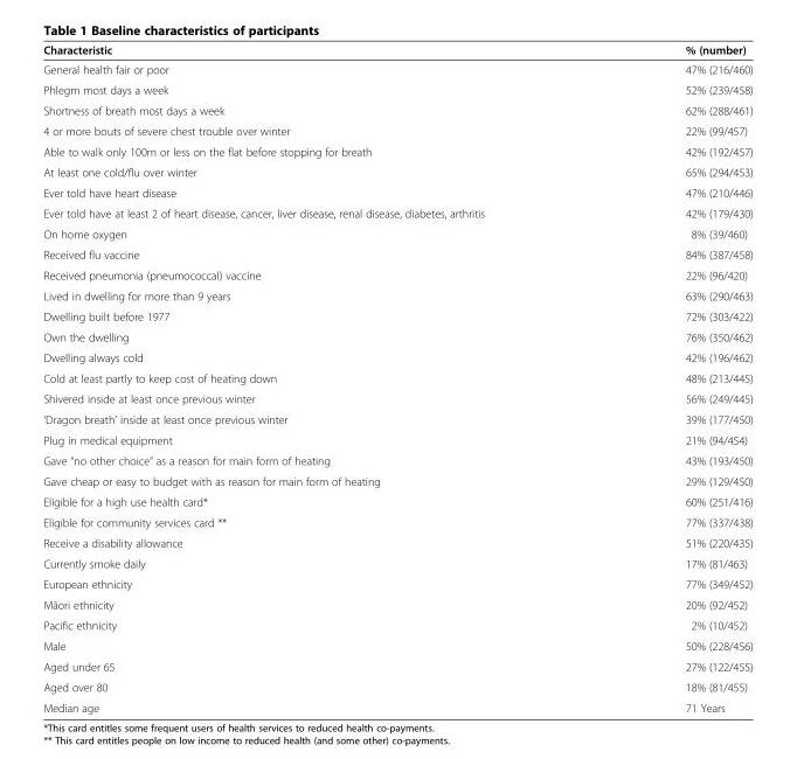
<table><thead><tr><td>Characteristic</td><td>% (number)</td></tr></thead><tbody><tr><td>General health fair or poor</td><td>47% (216/460)</td></tr><tr><td>Phlegm most days a week</td><td>52% (239/458)</td></tr><tr><td>Shortness of breath most days a week</td><td>62% (288/461)</td></tr><tr><td>4 or more bouts of severe chest trouble over winter</td><td>22% (99/457)</td></tr><tr><td>Able to walk only 100m or less on the flat before stopping for breath</td><td>42% (192/457)</td></tr><tr><td>At least one cold/flu over winter</td><td>65% (294/453)</td></tr><tr><td>Ever told have heart disease</td><td>47% (210/446)</td></tr><tr><td>Ever told have at least 2 of heart disease, cancer, liver disease, renal disease, diabetes, arthritis</td><td>42% (179/430)</td></tr><tr><td>On home oxygen</td><td>8% (39/460)</td></tr><tr><td>Received flu vaccine</td><td>84% (387/458)</td></tr><tr><td>Received pneumonia (pneumococcal) vaccine</td><td>22% (96/420)</td></tr><tr><td>Lived in dwelling for more than 9 years</td><td>63% (290/463)</td></tr><tr><td>Dwelling built before 1977</td><td>72% (303/422)</td></tr><tr><td>Own the dwelling</td><td>76% (350/462)</td></tr><tr><td>Dwelling always cold</td><td>42% (196/462)</td></tr><tr><td>Cold at least partly to keep cost of heating down</td><td>48% (213/445)</td></tr><tr><td>Shivered inside at least once previous winter</td><td>56% (249/445)</td></tr><tr><td>‘Dragon breath’ inside at least once previous winter</td><td>39% (177/450)</td></tr><tr><td>Plug in medical equipment</td><td>21% (94/454)</td></tr><tr><td>Gave “no other choice” as a reason for main form of heating</td><td>43% (193/450)</td></tr><tr><td>Gave cheap or easy to budget with as reason for main form of heating</td><td>29% (129/450)</td></tr><tr><td>Eligible for a high use health card*</td><td>60% (251/416)</td></tr><tr><td>Eligible for community services card **</td><td>77% (337/438)</td></tr><tr><td>Receive a disability allowance</td><td>51% (220/435)</td></tr><tr><td>Currently smoke daily</td><td>17% (81/463)</td></tr><tr><td>European ethnicity</td><td>77% (349/452)</td></tr><tr><td>Māori ethnicity</td><td>20% (92/452)</td></tr><tr><td>Pacific ethnicity</td><td>2% (10/452)</td></tr><tr><td>Male</td><td>50% (228/456)</td></tr><tr><td>Aged under 65</td><td>27% (122/455)</td></tr><tr><td>Aged over 80</td><td>18% (81/455)</td></tr><tr><td>Median age</td><td>71 Years</td></tr></tbody></table>